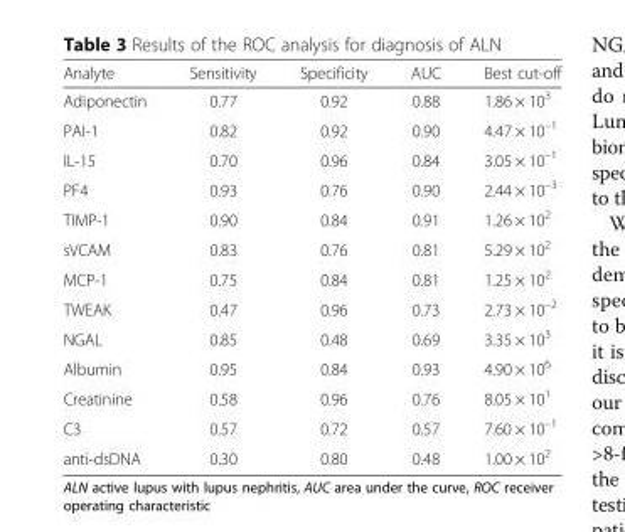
<table><thead><tr><td>Analyte</td><td>Sensitivity</td><td>Specificity</td><td>AUC</td><td>Best cut-off</td></tr></thead><tbody><tr><td>Adiponectin</td><td>0.77</td><td>0.92</td><td>0.88</td><td>1.86 × 10<sup>3</sup></td></tr><tr><td>PAI-1</td><td>0.82</td><td>0.92</td><td>0.90</td><td>4.47 × 10<sup>–1</sup></td></tr><tr><td>IL-15</td><td>0.70</td><td>0.96</td><td>0.84</td><td>3.05 × 10<sup>–1</sup></td></tr><tr><td>PF4</td><td>0.93</td><td>0.76</td><td>0.90</td><td>2.44 × 10<sup>–3</sup></td></tr><tr><td>TIMP-1</td><td>0.90</td><td>0.84</td><td>0.91</td><td>1.26 × 10<sup>2</sup></td></tr><tr><td>sVCAM</td><td>0.83</td><td>0.76</td><td>0.81</td><td>5.29 × 10<sup>2</sup></td></tr><tr><td>MCP-1</td><td>0.75</td><td>0.84</td><td>0.81</td><td>1.25 × 10<sup>2</sup></td></tr><tr><td>TWEAK</td><td>0.47</td><td>0.96</td><td>0.73</td><td>2.73 × 10<sup>–2</sup></td></tr><tr><td>NGAL</td><td>0.85</td><td>0.48</td><td>0.69</td><td>3.35 × 10<sup>3</sup></td></tr><tr><td>Albumin</td><td>0.95</td><td>0.84</td><td>0.93</td><td>4.90 × 10<sup>6</sup></td></tr><tr><td>Creatinine</td><td>0.58</td><td>0.96</td><td>0.76</td><td>8.05 × 10<sup>1</sup></td></tr><tr><td>C3</td><td>0.57</td><td>0.72</td><td>0.57</td><td>7.60 × 10<sup>–1</sup></td></tr><tr><td>anti-dsDNA</td><td>0.30</td><td>0.80</td><td>0.48</td><td>1.00 × 10<sup>2</sup></td></tr></tbody></table>